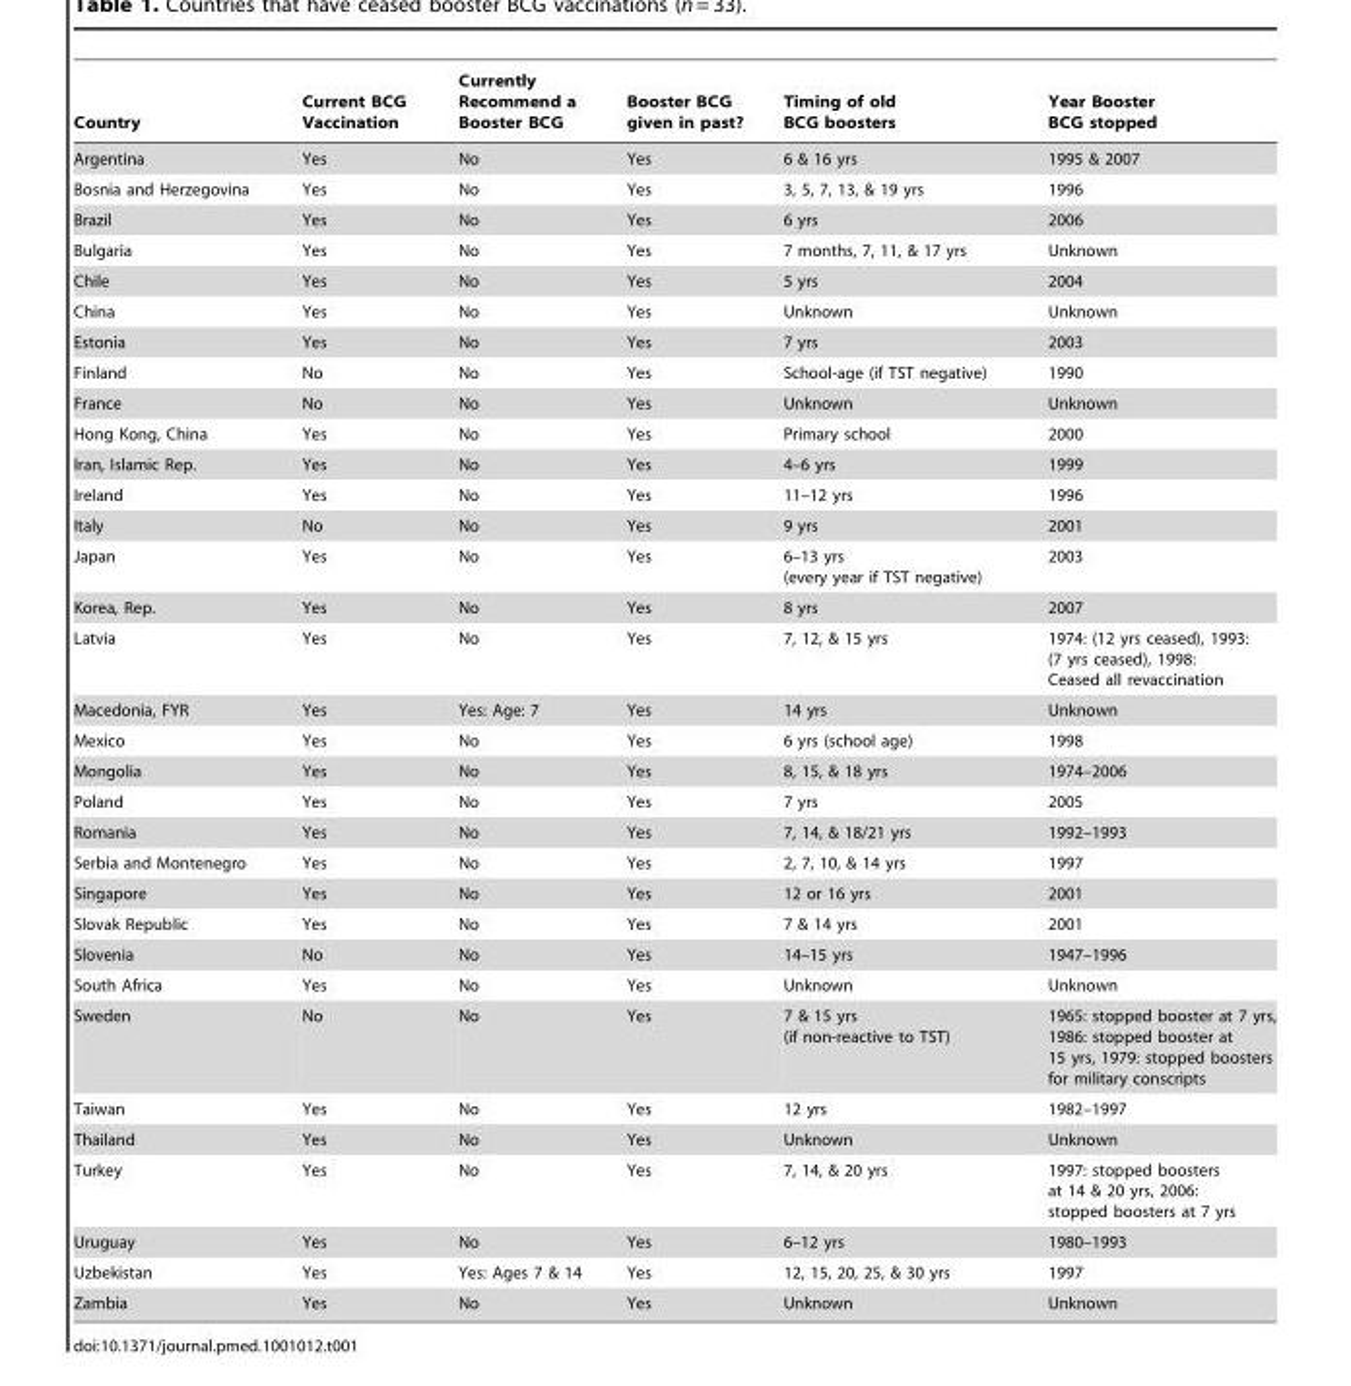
<table><thead><tr><td>Country</td><td>Current BCG Vaccination</td><td>Currently Recommend a Booster BCG</td><td>Booster BCG given in past?</td><td>Timing of old BCG boosters</td><td>Year Booster BCG stopped</td></tr></thead><tbody><tr><td>Argentina</td><td>Yes</td><td>No</td><td>Yes</td><td>6 &amp; 16 yrs</td><td>1995 &amp; 2007</td></tr><tr><td>Bosnia and Herzegovina</td><td>Yes</td><td>No</td><td>Yes</td><td>3, 5, 7, 13, &amp; 19 yrs</td><td>1996</td></tr><tr><td>Brazil</td><td>Yes</td><td>No</td><td>Yes</td><td>6 yrs</td><td>2006</td></tr><tr><td>Bulgaria</td><td>Yes</td><td>No</td><td>Yes</td><td>7 months, 7, 11, &amp; 17 yrs</td><td>Unknown</td></tr><tr><td>Chile</td><td>Yes</td><td>No</td><td>Yes</td><td>5 yrs</td><td>2004</td></tr><tr><td>China</td><td>Yes</td><td>No</td><td>Yes</td><td>Unknown</td><td>Unknown</td></tr><tr><td>Estonia</td><td>Yes</td><td>No</td><td>Yes</td><td>7 yrs</td><td>2003</td></tr><tr><td>Finland</td><td>No</td><td>No</td><td>Yes</td><td>School-age (if TST negative)</td><td>1990</td></tr><tr><td>France</td><td>No</td><td>No</td><td>Yes</td><td>Unknown</td><td>Unknown</td></tr><tr><td>Hong Kong, China</td><td>Yes</td><td>No</td><td>Yes</td><td>Primary school</td><td>2000</td></tr><tr><td>Iran, Islamic Rep.</td><td>Yes</td><td>No</td><td>Yes</td><td>4–6 yrs</td><td>1999</td></tr><tr><td>Ireland</td><td>Yes</td><td>No</td><td>Yes</td><td>11–12 yrs</td><td>1996</td></tr><tr><td>Italy</td><td>No</td><td>No</td><td>Yes</td><td>9 yrs</td><td>2001</td></tr><tr><td>Japan</td><td>Yes</td><td>No</td><td>Yes</td><td>6–13 yrs (every year if TST negative)</td><td>2003</td></tr><tr><td>Korea, Rep.</td><td>Yes</td><td>No</td><td>Yes</td><td>8 yrs</td><td>2007</td></tr><tr><td>Latvia</td><td>Yes</td><td>No</td><td>Yes</td><td>7, 12, &amp; 15 yrs</td><td>1974: (12 yrs ceased), 1993: (7 yrs ceased), 1998: Ceased all revaccination</td></tr><tr><td>Macedonia, FYR</td><td>Yes</td><td>Yes: Age: 7</td><td>Yes</td><td>14 yrs</td><td>Unknown</td></tr><tr><td>Mexico</td><td>Yes</td><td>No</td><td>Yes</td><td>6 yrs (school age)</td><td>1998</td></tr><tr><td>Mongolia</td><td>Yes</td><td>No</td><td>Yes</td><td>8, 15, &amp; 18 yrs</td><td>1974–2006</td></tr><tr><td>Poland</td><td>Yes</td><td>No</td><td>Yes</td><td>7 yrs</td><td>2005</td></tr><tr><td>Romania</td><td>Yes</td><td>No</td><td>Yes</td><td>7, 14, &amp; 18/21 yrs</td><td>1992–1993</td></tr><tr><td>Serbia and Montenegro</td><td>Yes</td><td>No</td><td>Yes</td><td>2, 7, 10, &amp; 14 yrs</td><td>1997</td></tr><tr><td>Singapore</td><td>Yes</td><td>No</td><td>Yes</td><td>12 or 16 yrs</td><td>2001</td></tr><tr><td>Slovak Republic</td><td>Yes</td><td>No</td><td>Yes</td><td>7 &amp; 14 yrs</td><td>2001</td></tr><tr><td>Slovenia</td><td>No</td><td>No</td><td>Yes</td><td>14–15 yrs</td><td>1947–1996</td></tr><tr><td>South Africa</td><td>Yes</td><td>No</td><td>Yes</td><td>Unknown</td><td>Unknown</td></tr><tr><td>Sweden</td><td>No</td><td>No</td><td>Yes</td><td>7 &amp; 15 yrs (if non-reactive to TST)</td><td>1965: stopped booster at 7 yrs, 1986: stopped booster at 15 yrs, 1979: stopped boosters for military conscripts</td></tr><tr><td>Taiwan</td><td>Yes</td><td>No</td><td>Yes</td><td>12 yrs</td><td>1982–1997</td></tr><tr><td>Thailand</td><td>Yes</td><td>No</td><td>Yes</td><td>Unknown</td><td>Unknown</td></tr><tr><td>Turkey</td><td>Yes</td><td>No</td><td>Yes</td><td>7, 14, &amp; 20 yrs</td><td>1997: stopped boosters at 14 &amp; 20 yrs, 2006: stopped boosters at 7 yrs</td></tr><tr><td>Uruguay</td><td>Yes</td><td>No</td><td>Yes</td><td>6–12 yrs</td><td>1980–1993</td></tr><tr><td>Uzbekistan</td><td>Yes</td><td>Yes: Ages 7 &amp; 14</td><td>Yes</td><td>12, 15, 20, 25, &amp; 30 yrs</td><td>1997</td></tr><tr><td>Zambia</td><td>Yes</td><td>No</td><td>Yes</td><td>Unknown</td><td>Unknown</td></tr></tbody></table>